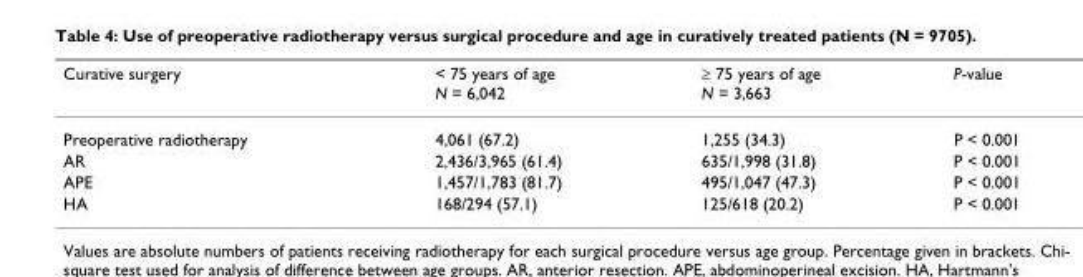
<table><thead><tr><td>Curative surgery</td><td>&lt; 75 years of age N = 6,042</td><td>≥ 75 years of age N = 3,663</td><td>P-value</td></tr></thead><tbody><tr><td>Preoperative radiotherapy</td><td>4,061 (67.2)</td><td>1,255 (34.3)</td><td>P &lt; 0.001</td></tr><tr><td>AR</td><td>2,436/3,965 (61.4)</td><td>635/1,998 (31.8)</td><td>P &lt; 0.001</td></tr><tr><td>APE</td><td>1,457/1,783 (81.7)</td><td>495/1,047 (47.3)</td><td>P &lt; 0.001</td></tr><tr><td>HA</td><td>168/294 (57.1)</td><td>125/618 (20.2)</td><td>P &lt; 0.001</td></tr></tbody></table>